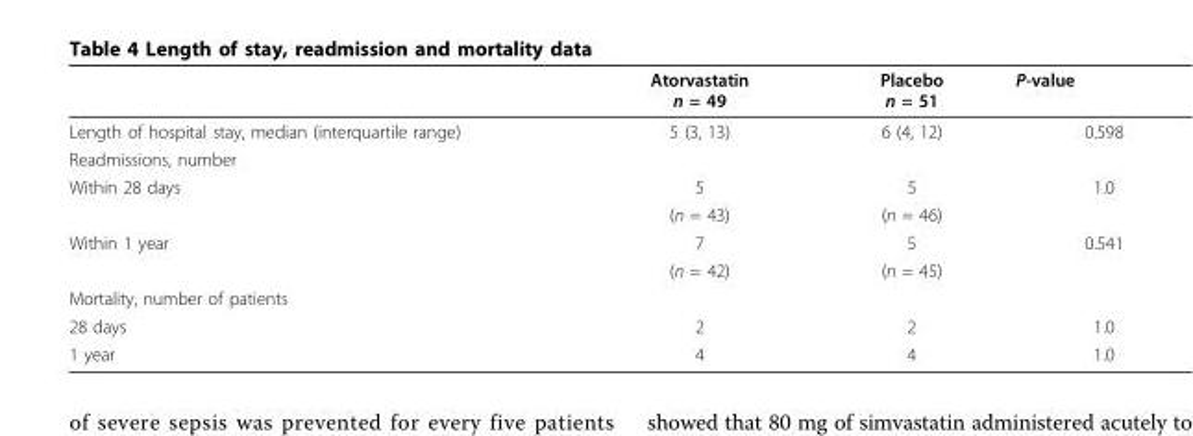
<table><thead><tr><td></td><td>Atorvastatin n = 49</td><td>Placebo n = 51</td><td>P-value</td></tr></thead><tbody><tr><td>Length of hospital stay, median (interquartile range)</td><td>5 (3, 13)</td><td>6 (4, 12)</td><td>0.598</td></tr><tr><td colspan="4">Readmissions, number</td></tr><tr><td rowspan="2">Within 28 days</td><td>5</td><td>5</td><td>1.0</td></tr><tr><td>(n = 43)</td><td>(n = 46)</td><td></td></tr><tr><td rowspan="2">Within 1 year</td><td>7</td><td>5</td><td>0.541</td></tr><tr><td>(n = 42)</td><td>(n = 45)</td><td></td></tr><tr><td colspan="4">Mortality, number of patients</td></tr><tr><td>28 days</td><td>2</td><td>2</td><td>1.0</td></tr><tr><td>1 year</td><td>4</td><td>4</td><td>1.0</td></tr></tbody></table>